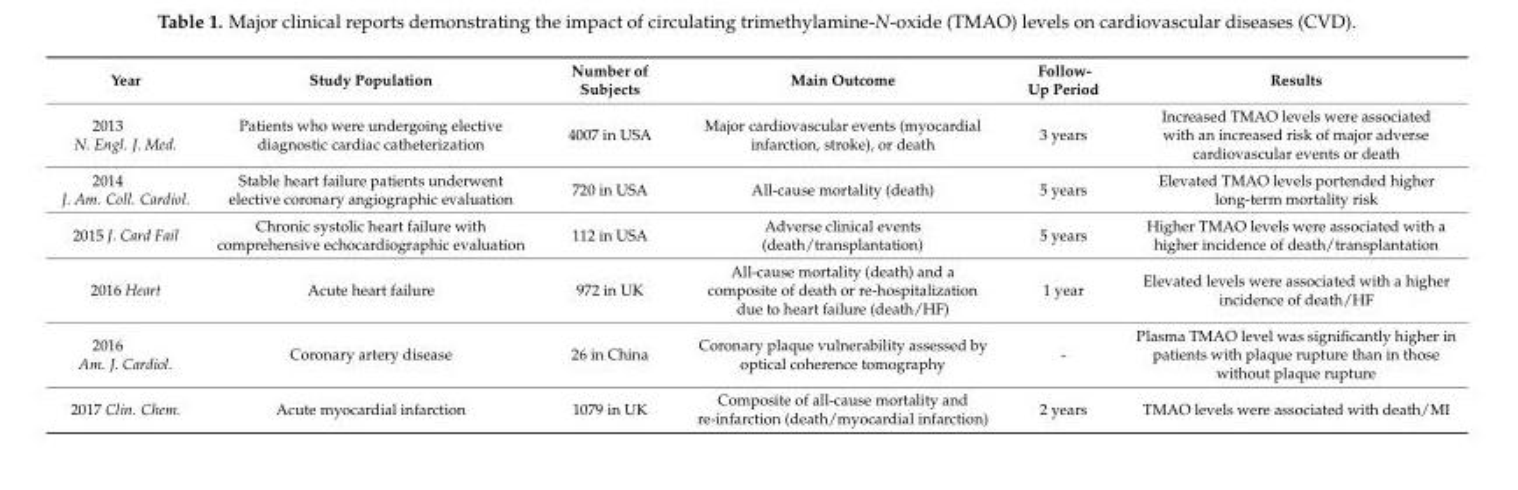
<table><thead><tr><td>Year</td><td>Study Population</td><td>Number of Subjects</td><td>Main Outcome</td><td>Follow- Up Period</td><td>Results</td></tr></thead><tbody><tr><td>2013 N. Engl. J. Med.</td><td>Patients who were undergoing elective diagnostic cardiac catheterization</td><td>4007 in USA</td><td>Major cardiovascular events (myocardial infarction, stroke), or death</td><td>3 years</td><td>Increased TMAO levels were associated with an increased risk of major adverse cardiovascular events or death</td></tr><tr><td>2014 J. Am. Coll. Cardiol.</td><td>Stable heart failure patients underwent elective coronary angiographic evaluation</td><td>720 in USA</td><td>All-cause mortality (death)</td><td>5 years</td><td>Elevated TMAO levels portended higher long-term mortality risk</td></tr><tr><td>2015 J. Card Fail</td><td>Chronic systolic heart failure with comprehensive echocardiographic evaluation</td><td>112 in USA</td><td>Adverse clinical events (death/transplantation)</td><td>5 years</td><td>Higher TMAO levels were associated with a higher incidence of death/transplantation</td></tr><tr><td>2016 Heart</td><td>Acute heart failure</td><td>972 in UK</td><td>All-cause mortality (death) and a composite of death or re-hospitalization due to heart failure (death/HF)</td><td>1 year</td><td>Elevated levels were associated with a higher incidence of death/HF</td></tr><tr><td>2016 Am. J. Cardiol.</td><td>Coronary artery disease</td><td>26 in China</td><td>Coronary plaque vulnerability assessed by optical coherence tomography</td><td>-</td><td>Plasma TMAO level was significantly higher in patients with plaque rupture than in those without plaque rupture</td></tr><tr><td>2017 Clin. Chem.</td><td>Acute myocardial infarction</td><td>1079 in UK</td><td>Composite of all-cause mortality and re-infarction (death/myocardial infarction)</td><td>2 years</td><td>TMAO levels were associated with death/MI</td></tr></tbody></table>